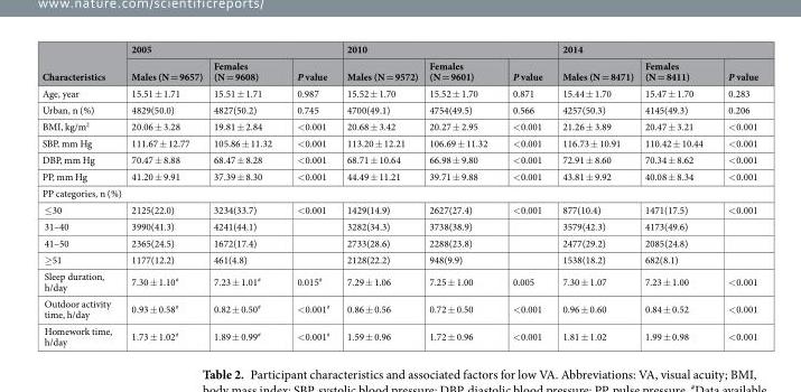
<table><thead><tr><td rowspan="2">Characteristics</td><td colspan="3">2005</td><td colspan="3">2010</td><td colspan="3">2014</td></tr><tr><td>Males (N = 9657)</td><td>Females (N = 9608)</td><td>P value</td><td>Males (N = 9572)</td><td>Females (N = 9601)</td><td>P value</td><td>Males (N = 8471)</td><td>Females (N = 8411)</td><td>P value</td></tr></thead><tbody><tr><td>Age, year</td><td>15.51 ± 1.71</td><td>15.51 ± 1.71</td><td>0.987</td><td>15.52 ± 1.70</td><td>15.52 ± 1.70</td><td>0.871</td><td>15.44 ± 1.70</td><td>15.47 ± 1.70</td><td>0.283</td></tr><tr><td>Urban, n (%)</td><td>4829(50.0)</td><td>4827(50.2)</td><td>0.745</td><td>4700(49.1)</td><td>4754(49.5)</td><td>0.566</td><td>4257(50.3)</td><td>4145(49.3)</td><td>0.206</td></tr><tr><td>BMI, kg/m<sup>2</sup></td><td>20.06 ± 3.28</td><td>19.81 ± 2.84</td><td>&lt;0.001</td><td>20.68 ± 3.42</td><td>20.27 ± 2.95</td><td>&lt;0.001</td><td>21.26 ± 3.89</td><td>20.47 ± 3.21</td><td>&lt;0.001</td></tr><tr><td>SBP, mm Hg</td><td>111.67 ± 12.77</td><td>105.86 ± 11.32</td><td>&lt;0.001</td><td>113.20 ± 12.21</td><td>106.69 ± 11.32</td><td>&lt;0.001</td><td>116.73 ± 10.91</td><td>110.42 ± 10.44</td><td>&lt;0.001</td></tr><tr><td>DBP, mm Hg</td><td>70.47 ± 8.88</td><td>68.47 ± 8.28</td><td>&lt;0.001</td><td>68.71 ± 10.64</td><td>66.98 ± 9.80</td><td>&lt;0.001</td><td>72.91 ± 8.60</td><td>70.34 ± 8.62</td><td>&lt;0.001</td></tr><tr><td>PP, mm Hg</td><td>41.20 ± 9.91</td><td>37.39 ± 8.30</td><td>&lt;0.001</td><td>44.49 ± 11.21</td><td>39.71 ± 9.88</td><td>&lt;0.001</td><td>43.81 ± 9.92</td><td>40.08 ± 8.34</td><td>&lt;0.001</td></tr><tr><td colspan="10">PP categories, n (%)</td></tr><tr><td>≤30</td><td>2125(22.0)</td><td>3234(33.7)</td><td>&lt;0.001</td><td>1429(14.9)</td><td>2627(27.4)</td><td>&lt;0.001</td><td>877(10.4)</td><td>1471(17.5)</td><td>&lt;0.001</td></tr><tr><td>31–40</td><td>3990(41.3)</td><td>4241(44.1)</td><td></td><td>3282(34.3)</td><td>3738(38.9)</td><td></td><td>3579(42.3)</td><td>4173(49.6)</td><td></td></tr><tr><td>41–50</td><td>2365(24.5)</td><td>1672(17.4)</td><td></td><td>2733(28.6)</td><td>2288(23.8)</td><td></td><td>2477(29.2)</td><td>2085(24.8)</td><td></td></tr><tr><td>≥51</td><td>1177(12.2)</td><td>461(4.8)</td><td></td><td>2128(22.2)</td><td>948(9.9)</td><td></td><td>1538(18.2)</td><td>682(8.1)</td><td></td></tr><tr><td>Sleep duration, h/day</td><td>7.30 ± 1.10<sup>#</sup></td><td>7.23 ± 1.01<sup>#</sup></td><td>0.015<sup>#</sup></td><td>7.29 ± 1.06</td><td>7.25 ± 1.00</td><td>0.005</td><td>7.30 ± 1.07</td><td>7.23 ± 1.00</td><td>&lt;0.001</td></tr><tr><td>Outdoor activity time, h/day</td><td>0.93 ± 0.58<sup>#</sup></td><td>0.82 ± 0.50<sup>#</sup></td><td>&lt;0.001<sup>#</sup></td><td>0.86 ± 0.56</td><td>0.72 ± 0.50</td><td>&lt;0.001</td><td>0.96 ± 0.60</td><td>0.84 ± 0.52</td><td>&lt;0.001</td></tr><tr><td>Homework time, h/day</td><td>1.73 ± 1.02<sup>#</sup></td><td>1.89 ± 0.99<sup>#</sup></td><td>&lt;0.001<sup>#</sup></td><td>1.59 ± 0.96</td><td>1.72 ± 0.96</td><td>&lt;0.001</td><td>1.81 ± 1.02</td><td>1.99 ± 0.98</td><td>&lt;0.001</td></tr></tbody></table>